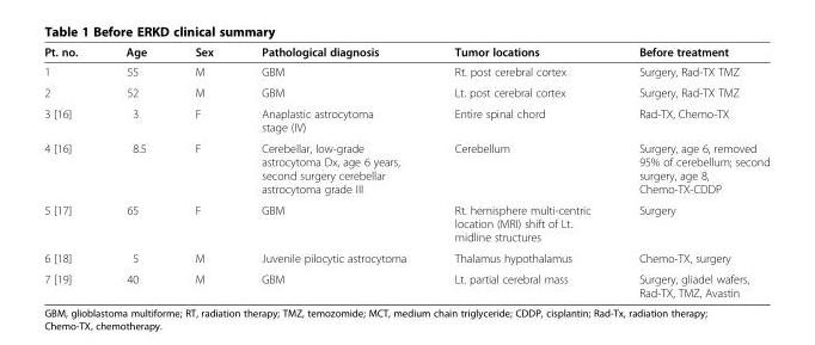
<table><thead><tr><td>Pt. no.</td><td>Age</td><td>Sex</td><td>Pathological diagnosis</td><td>Tumor locations</td><td>Before treatment</td></tr></thead><tbody><tr><td>1</td><td>55</td><td>M</td><td>GBM</td><td>Rt. post cerebral cortex</td><td>Surgery, Rad-TX TMZ</td></tr><tr><td>2</td><td>52</td><td>M</td><td>GBM</td><td>Lt. post cerebral cortex</td><td>Surgery, Rad-TX TMZ</td></tr><tr><td>3 [16]</td><td>3</td><td>F</td><td>Anaplastic astrocytoma stage (IV)</td><td>Entire spinal chord</td><td>Rad-TX, Chemo-TX</td></tr><tr><td>4 [16]</td><td>8.5</td><td>F</td><td>Cerebellar, low-grade astrocytoma Dx, age 6 years, second surgery cerebellar astrocytoma grade III</td><td>Cerebellum</td><td>Surgery, age 6, removed 95% of cerebellum; second surgery, age 8, Chemo-TX-CDDP</td></tr><tr><td>5 [17]</td><td>65</td><td>F</td><td>GBM</td><td>Rt. hemisphere multi-centric location (MRI) shift of Lt. midline structures</td><td>Surgery</td></tr><tr><td>6 [18]</td><td>5</td><td>M</td><td>Juvenile pilocytic astrocytoma</td><td>Thalamus hypothalamus</td><td>Chemo-TX, surgery</td></tr><tr><td>7 [19]</td><td>40</td><td>M</td><td>GBM</td><td>Lt. partial cerebral mass</td><td>Surgery, gliadel wafers, Rad-TX, TMZ, Avastin</td></tr></tbody></table>